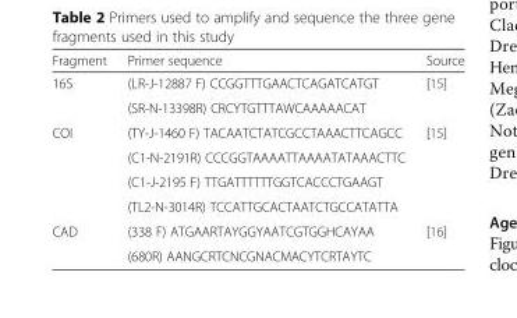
<table><thead><tr><td>Fragment</td><td>Primer sequence</td><td>Source</td></tr></thead><tbody><tr><td rowspan="2">16S</td><td>(LR-J-12887 F) CCGGTTTGAACTCAGATCATGT</td><td rowspan="2">[15]</td></tr><tr><td>(SR-N-13398R) CRCYTGTTTAWCAAAAACAT</td></tr><tr><td rowspan="4">COI</td><td>(TY-J-1460 F) TACAATCTATCGCCTAAACTTCAGCC</td><td rowspan="4">[15]</td></tr><tr><td>(C1-N-2191R) CCCGGTAAAATTAAAATATAAACTTC</td></tr><tr><td>(C1-J-2195 F) TTGATTTTTTGGTCACCCTGAAGT</td></tr><tr><td>(TL2-N-3014R) TCCATTGCACTAATCTGCCATATTA</td></tr><tr><td rowspan="2">CAD</td><td>(338 F) ATGAARTAYGGYAATCGTGGHCAYAA</td><td rowspan="2">[16]</td></tr><tr><td>(680R) AANGCRTCNCGNACMACYTCRTAYTC</td></tr></tbody></table>